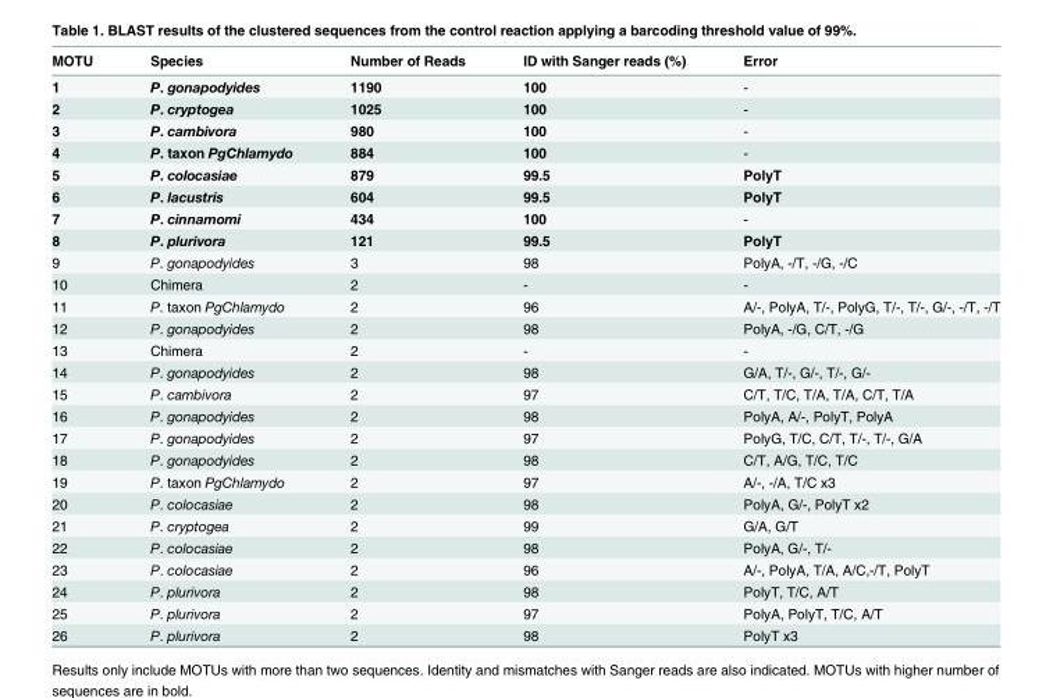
<table><thead><tr><td>MOTU</td><td>Species</td><td>Number of Reads</td><td>ID with Sanger reads (%)</td><td>Error</td></tr></thead><tbody><tr><td>1</td><td>P. gonapodyides</td><td>1190</td><td>100</td><td>-</td></tr><tr><td>2</td><td>P. cryptogea</td><td>1025</td><td>100</td><td>-</td></tr><tr><td>3</td><td>P. cambivora</td><td>980</td><td>100</td><td>-</td></tr><tr><td>4</td><td>P. taxon PgChlamydo</td><td>884</td><td>100</td><td>-</td></tr><tr><td>5</td><td>P. colocasiae</td><td>879</td><td>99.5</td><td>PolyT</td></tr><tr><td>6</td><td>P. lacustris</td><td>604</td><td>99.5</td><td>PolyT</td></tr><tr><td>7</td><td>P. cinnamomi</td><td>434</td><td>100</td><td>-</td></tr><tr><td>8</td><td>P. plurivora</td><td>121</td><td>99.5</td><td>PolyT</td></tr><tr><td>9</td><td>P. gonapodyides</td><td>3</td><td>98</td><td>PolyA, -/T, -/G, -/C</td></tr><tr><td>10</td><td>Chimera</td><td>2</td><td>-</td><td>-</td></tr><tr><td>11</td><td>P. taxon PgChlamydo</td><td>2</td><td>96</td><td>A/-, PolyA, T/-, PolyG, T/-, T/-, G/-, -/T, -/T</td></tr><tr><td>12</td><td>P. gonapodyides</td><td>2</td><td>98</td><td>PolyA, -/G, C/T, -/G</td></tr><tr><td>13</td><td>Chimera</td><td>2</td><td>-</td><td>-</td></tr><tr><td>14</td><td>P. gonapodyides</td><td>2</td><td>98</td><td>G/A, T/-, G/-, T/-, G/-</td></tr><tr><td>15</td><td>P. cambivora</td><td>2</td><td>97</td><td>C/T, T/C, T/A, T/A, C/T, T/A</td></tr><tr><td>16</td><td>P. gonapodyides</td><td>2</td><td>98</td><td>PolyA, A/-, PolyT, PolyA</td></tr><tr><td>17</td><td>P. gonapodyides</td><td>2</td><td>97</td><td>PolyG, T/C, C/T, T/-, T/-, G/A</td></tr><tr><td>18</td><td>P. gonapodyides</td><td>2</td><td>98</td><td>C/T, A/G, T/C, T/C</td></tr><tr><td>19</td><td>P. taxon PgChlamydo</td><td>2</td><td>97</td><td>A/-, -/A, T/C x3</td></tr><tr><td>20</td><td>P. colocasiae</td><td>2</td><td>98</td><td>PolyA, G/-, PolyT x2</td></tr><tr><td>21</td><td>P. cryptogea</td><td>2</td><td>99</td><td>G/A, G/T</td></tr><tr><td>22</td><td>P. colocasiae</td><td>2</td><td>98</td><td>PolyA, G/-, T/-</td></tr><tr><td>23</td><td>P. colocasiae</td><td>2</td><td>96</td><td>A/-, PolyA, T/A, A/C,-/T, PolyT</td></tr><tr><td>24</td><td>P. plurivora</td><td>2</td><td>98</td><td>PolyT, T/C, A/T</td></tr><tr><td>25</td><td>P. plurivora</td><td>2</td><td>97</td><td>PolyA, PolyT, T/C, A/T</td></tr><tr><td>26</td><td>P. plurivora</td><td>2</td><td>98</td><td>PolyT x3</td></tr></tbody></table>